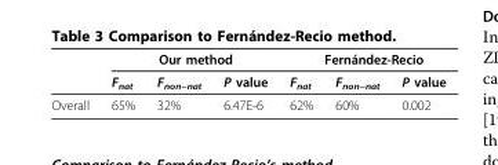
<table><thead><tr><td rowspan="2"></td><td colspan="3">Our method</td><td colspan="3">Fernández-Recio</td></tr><tr><td>F<sub>nat</sub></td><td>F<sub>non−nat</sub></td><td>P value</td><td>F<sub>nat</sub></td><td>F<sub>non−nat</sub></td><td>P value</td></tr></thead><tbody><tr><td>Overall</td><td>65%</td><td>32%</td><td>6.47E-6</td><td>62%</td><td>60%</td><td>0.002</td></tr></tbody></table>